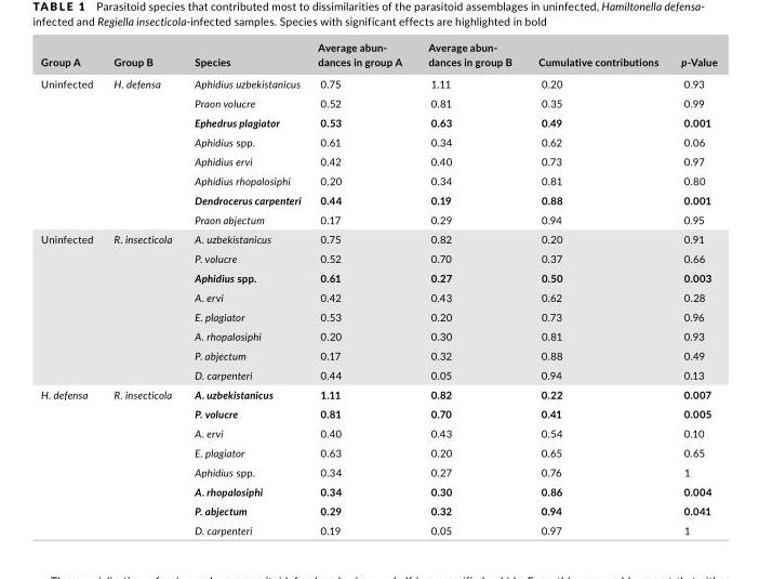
<table><thead><tr><td>Group A</td><td>Group B</td><td>Species</td><td>Average abun- dances in group A</td><td>Average abun- dances in group B</td><td>Cumulative contributions</td><td>p- Value</td></tr></thead><tbody><tr><td rowspan="8">Uninfected</td><td>H. defensa</td><td>Aphidius uzbekistanicus</td><td>0.75</td><td>1.11</td><td>0.20</td><td>0.93</td></tr><tr><td></td><td>Praon volucre</td><td>0.52</td><td>0.81</td><td>0.35</td><td>0.99</td></tr><tr><td></td><td>Ephedrus plagiator</td><td>0.53</td><td>0.63</td><td>0.49</td><td>0.001</td></tr><tr><td></td><td>Aphidius spp.</td><td>0.61</td><td>0.34</td><td>0.62</td><td>0.06</td></tr><tr><td></td><td>Aphidius ervi</td><td>0.42</td><td>0.40</td><td>0.73</td><td>0.97</td></tr><tr><td></td><td>Aphidius rhopalosiphi</td><td>0.20</td><td>0.34</td><td>0.81</td><td>0.80</td></tr><tr><td></td><td>Dendrocerus carpenteri</td><td>0.44</td><td>0.19</td><td>0.88</td><td>0.001</td></tr><tr><td></td><td>Praon abjectum</td><td>0.17</td><td>0.29</td><td>0.94</td><td>0.95</td></tr><tr><td rowspan="8">Uninfected</td><td>R. insecticola</td><td>A. uzbekistanicus</td><td>0.75</td><td>0.82</td><td>0.20</td><td>0.91</td></tr><tr><td></td><td>P. volucre</td><td>0.52</td><td>0.70</td><td>0.37</td><td>0.66</td></tr><tr><td></td><td>Aphidius spp.</td><td>0.61</td><td>0.27</td><td>0.50</td><td>0.003</td></tr><tr><td></td><td>A. ervi</td><td>0.42</td><td>0.43</td><td>0.62</td><td>0.28</td></tr><tr><td></td><td>E. plagiator</td><td>0.53</td><td>0.20</td><td>0.73</td><td>0.96</td></tr><tr><td></td><td>A. rhopalosiphi</td><td>0.20</td><td>0.30</td><td>0.81</td><td>0.93</td></tr><tr><td></td><td>P. abjectum</td><td>0.17</td><td>0.32</td><td>0.88</td><td>0.49</td></tr><tr><td></td><td>D. carpenteri</td><td>0.44</td><td>0.05</td><td>0.94</td><td>0.13</td></tr><tr><td rowspan="8">H. defensa</td><td>R. insecticola</td><td>A. uzbekistanicus</td><td>1.11</td><td>0.82</td><td>0.22</td><td>0.007</td></tr><tr><td></td><td>P. volucre</td><td>0.81</td><td>0.70</td><td>0.41</td><td>0.005</td></tr><tr><td></td><td>A. ervi</td><td>0.40</td><td>0.43</td><td>0.54</td><td>0.10</td></tr><tr><td></td><td>E. plagiator</td><td>0.63</td><td>0.20</td><td>0.65</td><td>0.65</td></tr><tr><td></td><td>Aphidius spp.</td><td>0.34</td><td>0.27</td><td>0.76</td><td>1</td></tr><tr><td></td><td>A. rhopalosiphi</td><td>0.34</td><td>0.30</td><td>0.86</td><td>0.004</td></tr><tr><td></td><td>P. abjectum</td><td>0.29</td><td>0.32</td><td>0.94</td><td>0.041</td></tr><tr><td></td><td>D. carpenteri</td><td>0.19</td><td>0.05</td><td>0.97</td><td>1</td></tr></tbody></table>